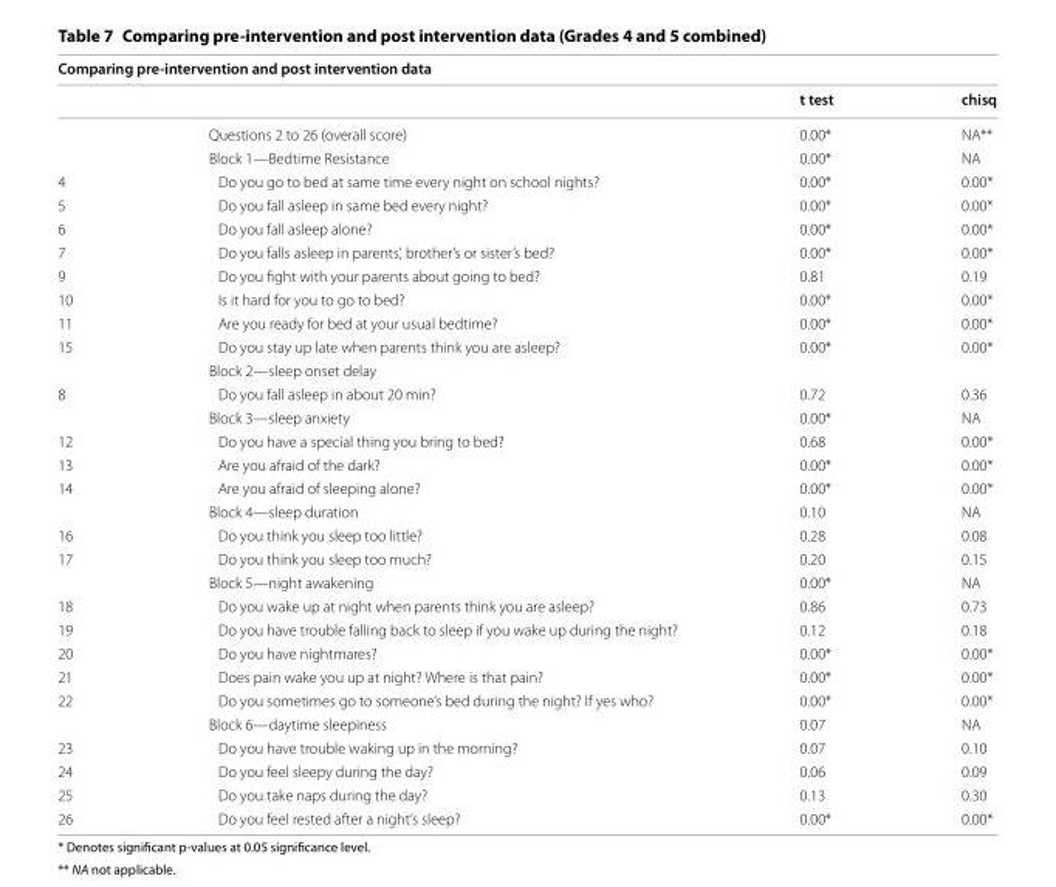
<table><thead><tr><td colspan="4">Comparing pre‑intervention and post intervention data</td></tr><tr><td></td><td></td><td>t test</td><td>chisq</td></tr></thead><tbody><tr><td></td><td>Questions 2 to 26 (overall score)</td><td>0.00*</td><td>NA**</td></tr><tr><td></td><td>Block 1—Bedtime Resistance</td><td>0.00*</td><td>NA</td></tr><tr><td>4</td><td>Do you go to bed at same time every night on school nights?</td><td>0.00*</td><td>0.00*</td></tr><tr><td>5</td><td>Do you fall asleep in same bed every night?</td><td>0.00*</td><td>0.00*</td></tr><tr><td>6</td><td>Do you fall asleep alone?</td><td>0.00*</td><td>0.00*</td></tr><tr><td>7</td><td>Do you falls asleep in parents’, brother’s or sister’s bed?</td><td>0.00*</td><td>0.00*</td></tr><tr><td>9</td><td>Do you fight with your parents about going to bed?</td><td>0.81</td><td>0.19</td></tr><tr><td>10</td><td>Is it hard for you to go to bed?</td><td>0.00*</td><td>0.00*</td></tr><tr><td>11</td><td>Are you ready for bed at your usual bedtime?</td><td>0.00*</td><td>0.00*</td></tr><tr><td rowspan="2">15</td><td>Do you stay up late when parents think you are asleep?</td><td>0.00*</td><td>0.00*</td></tr><tr><td colspan="3">Block 2—sleep onset delay</td></tr><tr><td rowspan="2">8</td><td>Do you fall asleep in about 20 min?</td><td>0.72</td><td>0.36</td></tr><tr><td>Block 3—sleep anxiety</td><td>0.00*</td><td>NA</td></tr><tr><td>12</td><td>Do you have a special thing you bring to bed?</td><td>0.68</td><td>0.00*</td></tr><tr><td>13</td><td>Are you afraid of the dark?</td><td>0.00*</td><td>0.00*</td></tr><tr><td rowspan="2">14</td><td>Are you afraid of sleeping alone?</td><td>0.00*</td><td>0.00*</td></tr><tr><td>Block 4—sleep duration</td><td>0.10</td><td>NA</td></tr><tr><td>16</td><td>Do you think you sleep too little?</td><td>0.28</td><td>0.08</td></tr><tr><td rowspan="2">17</td><td>Do you think you sleep too much?</td><td>0.20</td><td>0.15</td></tr><tr><td>Block 5—night awakening</td><td>0.00*</td><td>NA</td></tr><tr><td>18</td><td>Do you wake up at night when parents think you are asleep?</td><td>0.86</td><td>0.73</td></tr><tr><td>19</td><td>Do you have trouble falling back to sleep if you wake up during the night?</td><td>0.12</td><td>0.18</td></tr><tr><td>20</td><td>Do you have nightmares?</td><td>0.00*</td><td>0.00*</td></tr><tr><td>21</td><td>Does pain wake you up at night? Where is that pain?</td><td>0.00*</td><td>0.00*</td></tr><tr><td rowspan="2">22</td><td>Do you sometimes go to someone’s bed during the night? If yes who?</td><td>0.00*</td><td>0.00*</td></tr><tr><td>Block 6—daytime sleepiness</td><td>0.07</td><td>NA</td></tr><tr><td>23</td><td>Do you have trouble waking up in the morning?</td><td>0.07</td><td>0.10</td></tr><tr><td>24</td><td>Do you feel sleepy during the day?</td><td>0.06</td><td>0.09</td></tr><tr><td>25</td><td>Do you take naps during the day?</td><td>0.13</td><td>0.30</td></tr><tr><td>26</td><td>Do you feel rested after a night’s sleep?</td><td>0.00*</td><td>0.00*</td></tr></tbody></table>